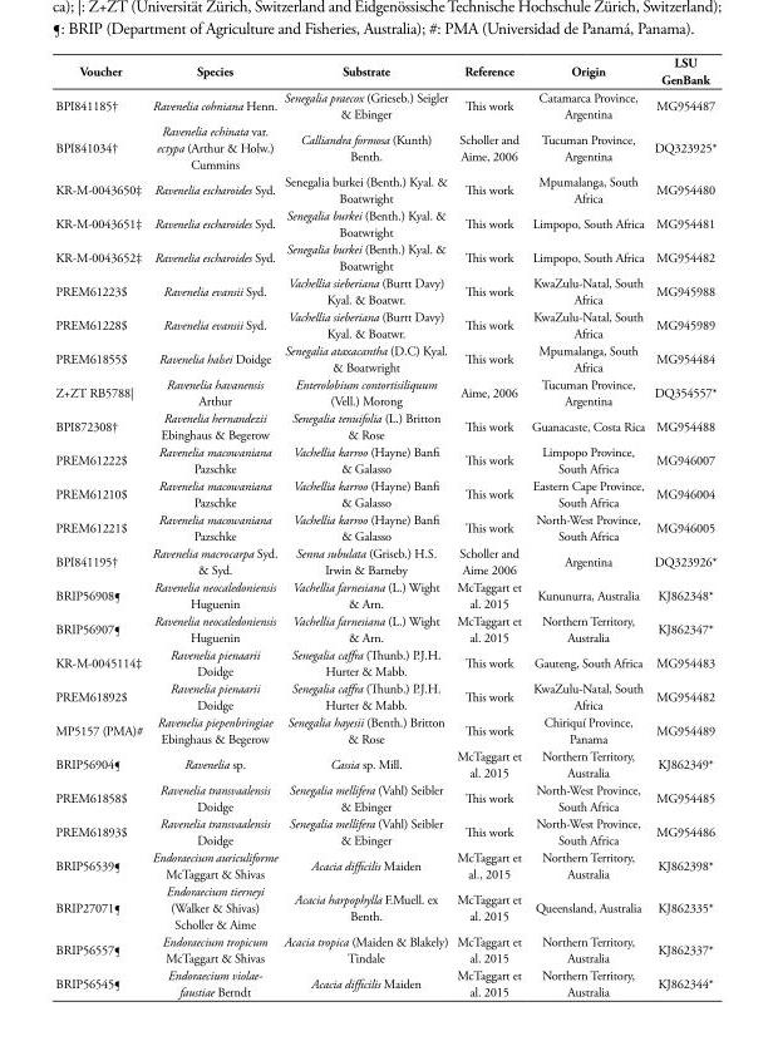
<table><thead><tr><td rowspan="2">Voucher</td><td rowspan="2">Species</td><td rowspan="2">Substrate</td><td rowspan="2">Reference</td><td rowspan="2">Origin</td><td rowspan="2">LSU GenBank</td></tr><tr></tr></thead><tbody><tr><td>BPI841185†</td><td>Ravenelia cohniana Henn.</td><td>Senegalia praecox (Grieseb.) Seigler &amp; Ebinger</td><td>This work</td><td>Catamarca Province, Argentina</td><td>MG954487</td></tr><tr><td>BPI841034†</td><td>Ravenelia echinata var. ectypa (Arthur &amp; Holw.) Cummins</td><td>Calliandra formosa (Kunth) Benth.</td><td>Scholler and Aime, 2006</td><td>Tucuman Province, Argentina</td><td>DQ323925*</td></tr><tr><td>KR-M-0043650‡</td><td>Ravenelia escharoides Syd.</td><td>Senegalia burkei (Benth.) Kyal. &amp; Boatwright</td><td>This work</td><td>Mpumalanga, South Africa</td><td>MG954480</td></tr><tr><td>KR-M-0043651‡</td><td>Ravenelia escharoides Syd.</td><td>Senegalia burkei (Benth.) Kyal. &amp; Boatwright</td><td>This work</td><td>Limpopo, South Africa</td><td>MG954481</td></tr><tr><td>KR-M-0043652‡</td><td>Ravenelia escharoides Syd.</td><td>Senegalia burkei (Benth.) Kyal. &amp; Boatwright</td><td>This work</td><td>Limpopo, South Africa</td><td>MG954482</td></tr><tr><td>PREM61223$</td><td>Ravenelia evansii Syd.</td><td>Vachellia sieberiana (Burtt Davy) Kyal. &amp; Boatwr.</td><td>This work</td><td>KwaZulu-Natal, South Africa</td><td>MG945988</td></tr><tr><td>PREM61228$</td><td>Ravenelia evansii Syd.</td><td>Vachellia sieberiana (Burtt Davy) Kyal. &amp; Boatwr.</td><td>This work</td><td>KwaZulu-Natal, South Africa</td><td>MG945989</td></tr><tr><td>PREM61855$</td><td>Ravenelia halsei Doidge</td><td>Senegalia ataxacantha (D.C) Kyal. &amp; Boatwright</td><td>This work</td><td>Mpumalanga, South Africa</td><td>MG954484</td></tr><tr><td>Z+ZT RB5788|</td><td>Ravenelia havanensis Arthur</td><td>Enterolobium contortisiliquum (Vell.) Morong</td><td>Aime, 2006</td><td>Tucuman Province, Argentina</td><td>DQ354557*</td></tr><tr><td>BPI872308†</td><td>Ravenelia hernandezii Ebinghaus &amp; Begerow</td><td>Senegalia tenuifolia (L.) Britton &amp; Rose</td><td>This work</td><td>Guanacaste, Costa Rica</td><td>MG954488</td></tr><tr><td>PREM61222$</td><td>Ravenelia macowaniana Pazschke</td><td>Vachellia karroo (Hayne) Banfi &amp; Galasso</td><td>This work</td><td>Limpopo Province, South Africa</td><td>MG946007</td></tr><tr><td>PREM61210$</td><td>Ravenelia macowaniana Pazschke</td><td>Vachellia karroo (Hayne) Banfi &amp; Galasso</td><td>This work</td><td>Eastern Cape Province, South Africa</td><td>MG946004</td></tr><tr><td>PREM61221$</td><td>Ravenelia macowaniana Pazschke</td><td>Vachellia karroo (Hayne) Banfi &amp; Galasso</td><td>This work</td><td>North-West Province, South Africa</td><td>MG946005</td></tr><tr><td>BPI841195†</td><td>Ravenelia macrocarpa Syd. &amp; Syd.</td><td>Senna subulata (Griseb.) H.S. Irwin &amp; Barneby</td><td>Scholler and Aime 2006</td><td>Argentina</td><td>DQ323926*</td></tr><tr><td>BRIP56908¶</td><td>Ravenelia neocaledoniensis Huguenin</td><td>Vachellia farnesiana (L.) Wight &amp; Arn.</td><td>McTaggart et al. 2015</td><td>Kununurra, Australia</td><td>KJ862348*</td></tr><tr><td>BRIP56907¶</td><td>Ravenelia neocaledoniensis Huguenin</td><td>Vachellia farnesiana (L.) Wight &amp; Arn.</td><td>McTaggart et al. 2015</td><td>Northern Territory, Australia</td><td>KJ862347*</td></tr><tr><td>KR-M-0045114‡</td><td>Ravenelia pienaarii Doidge</td><td>Senegalia caffra (Thunb.) P.J.H. Hurter &amp; Mabb.</td><td>This work</td><td>Gauteng, South Africa</td><td>MG954483</td></tr><tr><td>PREM61892$</td><td>Ravenelia pienaarii Doidge</td><td>Senegalia caffra (Thunb.) P.J.H. Hurter &amp; Mabb.</td><td>This work</td><td>KwaZulu-Natal, South Africa</td><td>MG954482</td></tr><tr><td>MP5157 (PMA)#</td><td>Ravenelia piepenbringiae Ebinghaus &amp; Begerow</td><td>Senegalia hayesii (Benth.) Britton &amp; Rose</td><td>This work</td><td>Chiriquí Province, Panama</td><td>MG954489</td></tr><tr><td>BRIP56904¶</td><td>Ravenelia sp.</td><td>Cassia sp. Mill.</td><td>McTaggart et al. 2015</td><td>Northern Territory, Australia</td><td>KJ862349*</td></tr><tr><td>PREM61858$</td><td>Ravenelia transvaalensis Doidge</td><td>Senegalia mellifera (Vahl) Seibler &amp; Ebinger</td><td>This work</td><td>North-West Province, South Africa</td><td>MG954485</td></tr><tr><td>PREM61893$</td><td>Ravenelia transvaalensis Doidge</td><td>Senegalia mellifera (Vahl) Seibler &amp; Ebinger</td><td>This work</td><td>North-West Province, South Africa</td><td>MG954486</td></tr><tr><td>BRIP56539¶</td><td>Endoraecium auriculiforme McTaggart &amp; Shivas</td><td>Acacia difficilis Maiden</td><td>McTaggart et al., 2015</td><td>Northern Territory, Australia</td><td>KJ862398*</td></tr><tr><td>BRIP27071¶</td><td>Endoraecium tierneyi (Walker &amp; Shivas) Scholler &amp; Aime</td><td>Acacia harpophylla F.Muell. ex Benth.</td><td>McTaggart et al. 2015</td><td>Queensland, Australia</td><td>KJ862335*</td></tr><tr><td>BRIP56557¶</td><td>Endoraecium tropicum McTaggart &amp; Shivas</td><td>Acacia tropica (Maiden &amp; Blakely) Tindale</td><td>McTaggart et al. 2015</td><td>Northern Territory, Australia</td><td>KJ862337*</td></tr><tr><td>BRIP56545¶</td><td>Endoraecium violae- faustiae Berndt</td><td>Acacia difficilis Maiden</td><td>McTaggart et al. 2015</td><td>Northern Territory, Australia</td><td>KJ862344*</td></tr></tbody></table>